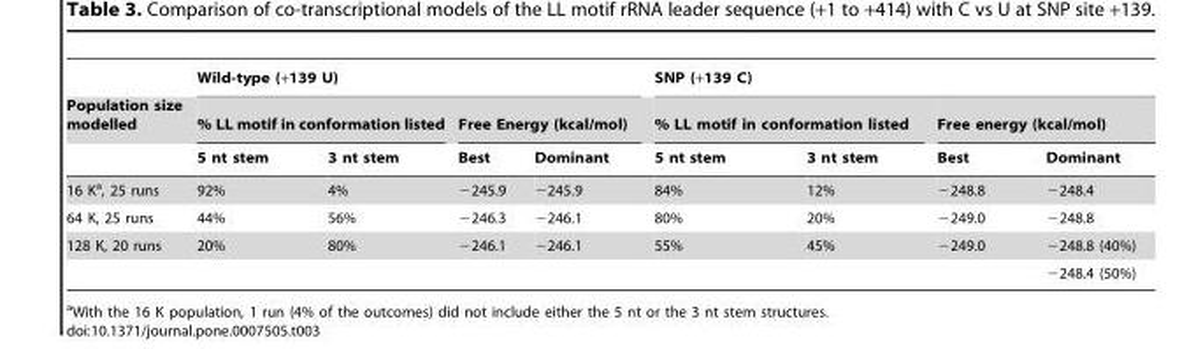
<table><thead><tr><td rowspan="3">Population size modelled</td><td colspan="4">Wild-type (+139 U)</td><td colspan="4">SNP (+139 C)</td></tr><tr><td colspan="2">% LL motif in conformation listed</td><td colspan="2">Free Energy (kcal/mol)</td><td colspan="2">% LL motif in conformation listed</td><td colspan="2">Free energy (kcal/mol)</td></tr><tr><td>5 nt stem</td><td>3 nt stem</td><td>Best</td><td>Dominant</td><td>5 nt stem</td><td>3 nt stem</td><td>Best</td><td>Dominant</td></tr></thead><tbody><tr><td>16 K<sup>a</sup>, 25 runs</td><td>92%</td><td>4%</td><td>−245.9</td><td>−245.9</td><td>84%</td><td>12%</td><td>−248.8</td><td>−248.4</td></tr><tr><td>64 K, 25 runs</td><td>44%</td><td>56%</td><td>−246.3</td><td>−246.1</td><td>80%</td><td>20%</td><td>−249.0</td><td>−248.8</td></tr><tr><td rowspan="2">128 K, 20 runs</td><td>20%</td><td>80%</td><td>−246.1</td><td>−246.1</td><td>55%</td><td>45%</td><td>−249.0</td><td>−248.8 (40%)</td></tr><tr><td></td><td></td><td></td><td></td><td></td><td></td><td></td><td>−248.4 (50%)</td></tr></tbody></table>